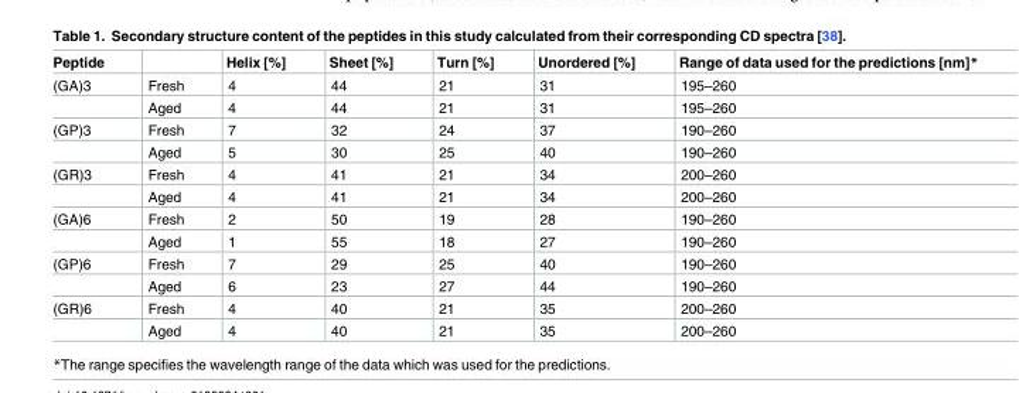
<table><thead><tr><td>Peptide</td><td></td><td>Helix [%]</td><td>Sheet [%]</td><td>Turn [%]</td><td>Unordered [%]</td><td>Range of data used for the predictions [nm]*</td></tr></thead><tbody><tr><td rowspan="2">(GA)3</td><td>Fresh</td><td>4</td><td>44</td><td>21</td><td>31</td><td>195–260</td></tr><tr><td>Aged</td><td>4</td><td>44</td><td>21</td><td>31</td><td>195–260</td></tr><tr><td rowspan="2">(GP)3</td><td>Fresh</td><td>7</td><td>32</td><td>24</td><td>37</td><td>190–260</td></tr><tr><td>Aged</td><td>5</td><td>30</td><td>25</td><td>40</td><td>190–260</td></tr><tr><td rowspan="2">(GR)3</td><td>Fresh</td><td>4</td><td>41</td><td>21</td><td>34</td><td>200–260</td></tr><tr><td>Aged</td><td>4</td><td>41</td><td>21</td><td>34</td><td>200–260</td></tr><tr><td rowspan="2">(GA)6</td><td>Fresh</td><td>2</td><td>50</td><td>19</td><td>28</td><td>190–260</td></tr><tr><td>Aged</td><td>1</td><td>55</td><td>18</td><td>27</td><td>190–260</td></tr><tr><td rowspan="2">(GP)6</td><td>Fresh</td><td>7</td><td>29</td><td>25</td><td>40</td><td>190–260</td></tr><tr><td>Aged</td><td>6</td><td>23</td><td>27</td><td>44</td><td>190–260</td></tr><tr><td rowspan="2">(GR)6</td><td>Fresh</td><td>4</td><td>40</td><td>21</td><td>35</td><td>200–260</td></tr><tr><td>Aged</td><td>4</td><td>40</td><td>21</td><td>35</td><td>200–260</td></tr></tbody></table>